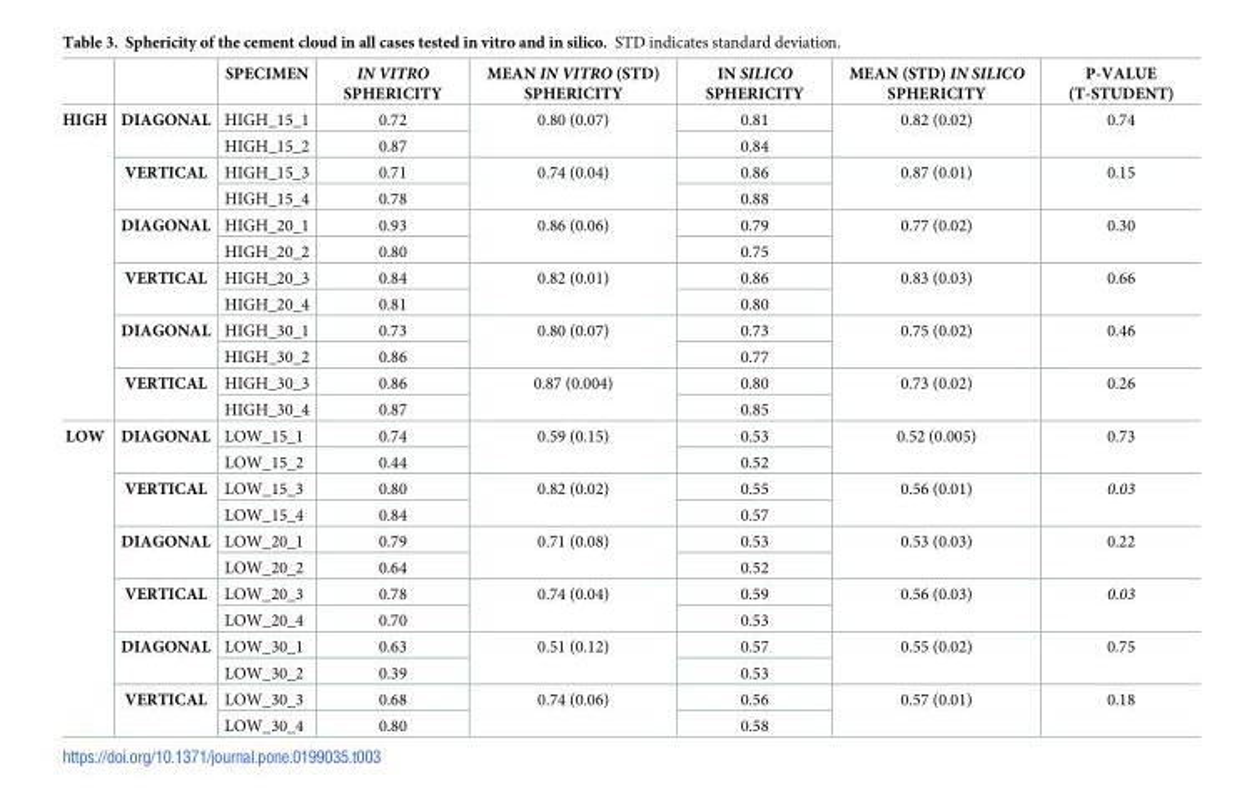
<table><thead><tr><td></td><td></td><td>SPECIMEN</td><td>IN VITRO SPHERICITY</td><td>MEAN IN VITRO (STD) SPHERICITY</td><td>IN SILICO SPHERICITY</td><td>MEAN (STD) IN SILICO SPHERICITY</td><td>P-VALUE (T-STUDENT)</td></tr></thead><tbody><tr><td rowspan="12">HIGH</td><td rowspan="2">DIAGONAL</td><td>HIGH_15_1</td><td>0.72</td><td rowspan="2">0.80 (0.07)</td><td>0.81</td><td rowspan="2">0.82 (0.02)</td><td rowspan="2">0.74</td></tr><tr><td>HIGH_15_2</td><td>0.87</td><td>0.84</td></tr><tr><td rowspan="2">VERTICAL</td><td>HIGH_15_3</td><td>0.71</td><td rowspan="2">0.74 (0.04)</td><td>0.86</td><td rowspan="2">0.87 (0.01)</td><td rowspan="2">0.15</td></tr><tr><td>HIGH_15_4</td><td>0.78</td><td>0.88</td></tr><tr><td rowspan="2">DIAGONAL</td><td>HIGH_20_1</td><td>0.93</td><td rowspan="2">0.86 (0.06)</td><td>0.79</td><td rowspan="2">0.77 (0.02)</td><td rowspan="2">0.30</td></tr><tr><td>HIGH_20_2</td><td>0.80</td><td>0.75</td></tr><tr><td rowspan="2">VERTICAL</td><td>HIGH_20_3</td><td>0.84</td><td rowspan="2">0.82 (0.01)</td><td>0.86</td><td rowspan="2">0.83 (0.03)</td><td rowspan="2">0.66</td></tr><tr><td>HIGH_20_4</td><td>0.81</td><td>0.80</td></tr><tr><td rowspan="2">DIAGONAL</td><td>HIGH_30_1</td><td>0.73</td><td rowspan="2">0.80 (0.07)</td><td>0.73</td><td rowspan="2">0.75 (0.02)</td><td rowspan="2">0.46</td></tr><tr><td>HIGH_30_2</td><td>0.86</td><td>0.77</td></tr><tr><td rowspan="2">VERTICAL</td><td>HIGH_30_3</td><td>0.86</td><td rowspan="2">0.87 (0.004)</td><td>0.80</td><td rowspan="2">0.73 (0.02)</td><td rowspan="2">0.26</td></tr><tr><td>HIGH_30_4</td><td>0.87</td><td>0.85</td></tr><tr><td rowspan="12">LOW</td><td rowspan="2">DIAGONAL</td><td>LOW_15_1</td><td>0.74</td><td rowspan="2">0.59 (0.15)</td><td>0.53</td><td rowspan="2">0.52 (0.005)</td><td rowspan="2">0.73</td></tr><tr><td>LOW_15_2</td><td>0.44</td><td>0.52</td></tr><tr><td rowspan="2">VERTICAL</td><td>LOW_15_3</td><td>0.80</td><td rowspan="2">0.82 (0.02)</td><td>0.55</td><td rowspan="2">0.56 (0.01)</td><td rowspan="2">0.03</td></tr><tr><td>LOW_15_4</td><td>0.84</td><td>0.57</td></tr><tr><td rowspan="2">DIAGONAL</td><td>LOW_20_1</td><td>0.79</td><td rowspan="2">0.71 (0.08)</td><td>0.53</td><td rowspan="2">0.53 (0.03)</td><td rowspan="2">0.22</td></tr><tr><td>LOW_20_2</td><td>0.64</td><td>0.52</td></tr><tr><td rowspan="2">VERTICAL</td><td>LOW_20_3</td><td>0.78</td><td rowspan="2">0.74 (0.04)</td><td>0.59</td><td rowspan="2">0.56 (0.03)</td><td rowspan="2">0.03</td></tr><tr><td>LOW_20_4</td><td>0.70</td><td>0.53</td></tr><tr><td rowspan="2">DIAGONAL</td><td>LOW_30_1</td><td>0.63</td><td rowspan="2">0.51 (0.12)</td><td>0.57</td><td rowspan="2">0.55 (0.02)</td><td rowspan="2">0.75</td></tr><tr><td>LOW_30_2</td><td>0.39</td><td>0.53</td></tr><tr><td rowspan="2">VERTICAL</td><td>LOW_30_3</td><td>0.68</td><td rowspan="2">0.74 (0.06)</td><td>0.56</td><td rowspan="2">0.57 (0.01)</td><td rowspan="2">0.18</td></tr><tr><td>LOW_30_4</td><td>0.80</td><td>0.58</td></tr></tbody></table>